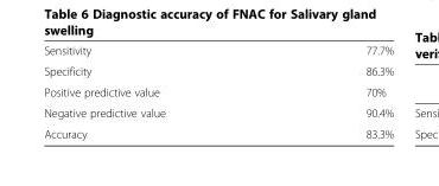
<table><tbody><tr><td>Sensitivity</td><td>77.7%</td></tr><tr><td>Specificity</td><td>86.3%</td></tr><tr><td>Positive predictive value</td><td>70%</td></tr><tr><td>Negative predictive value</td><td>90.4%</td></tr><tr><td>Accuracy</td><td>83.3%</td></tr></tbody></table>